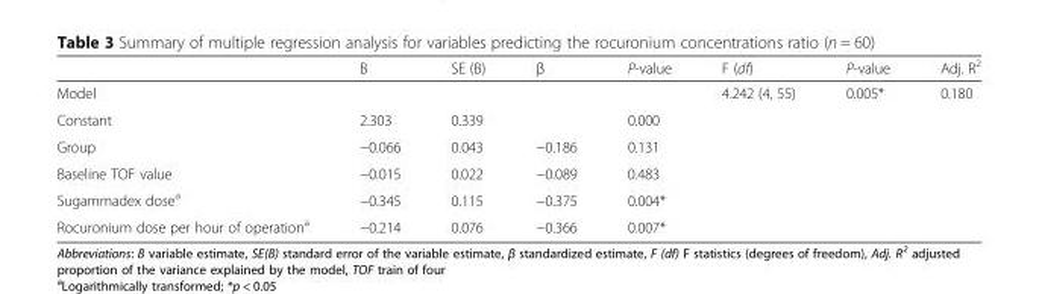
<table><thead><tr><td></td><td>B</td><td>SE (B)</td><td>β</td><td>P-value</td><td>F (df)</td><td>P-value</td><td>Adj. R<sup>2</sup></td></tr></thead><tbody><tr><td>Model</td><td></td><td></td><td></td><td></td><td>4.242 (4, 55)</td><td>0.005*</td><td>0.180</td></tr><tr><td>Constant</td><td>2.303</td><td>0.339</td><td></td><td>0.000</td><td></td><td></td><td></td></tr><tr><td>Group</td><td>−0.066</td><td>0.043</td><td>−0.186</td><td>0.131</td><td></td><td></td><td></td></tr><tr><td>Baseline TOF value</td><td>−0.015</td><td>0.022</td><td>−0.089</td><td>0.483</td><td></td><td></td><td></td></tr><tr><td>Sugammadex dose<sup>a</sup></td><td>−0.345</td><td>0.115</td><td>−0.375</td><td>0.004*</td><td></td><td></td><td></td></tr><tr><td>Rocuronium dose per hour of operation<sup>a</sup></td><td>−0.214</td><td>0.076</td><td>−0.366</td><td>0.007*</td><td></td><td></td><td></td></tr></tbody></table>